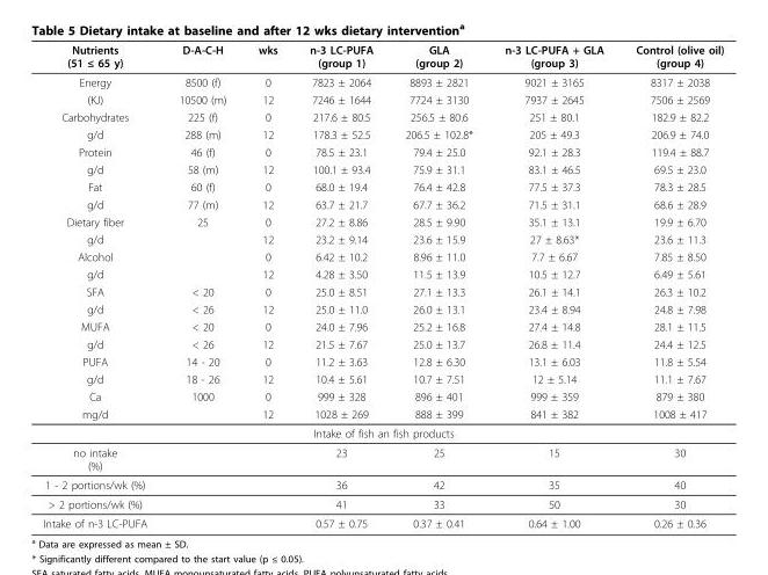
<table><thead><tr><td>Nutrients (51 ≤ 65 y)</td><td>D-A-C-H</td><td>wks</td><td>n-3 LC-PUFA (group 1)</td><td>GLA (group 2)</td><td>n-3 LC-PUFA + GLA (group 3)</td><td>Control (olive oil) (group 4)</td></tr></thead><tbody><tr><td>Energy</td><td>8500 (f)</td><td>0</td><td>7823 ± 2064</td><td>8893 ± 2821</td><td>9021 ± 3165</td><td>8317 ± 2038</td></tr><tr><td>(KJ)</td><td>10500 (m)</td><td>12</td><td>7246 ± 1644</td><td>7724 ± 3130</td><td>7937 ± 2645</td><td>7506 ± 2569</td></tr><tr><td>Carbohydrates</td><td>225 (f)</td><td>0</td><td>217.6 ± 80.5</td><td>256.5 ± 80.6</td><td>251 ± 80.1</td><td>182.9 ± 82.2</td></tr><tr><td>g/d</td><td>288 (m)</td><td>12</td><td>178.3 ± 52.5</td><td>206.5 ± 102.8*</td><td>205 ± 49.3</td><td>206.9 ± 74.0</td></tr><tr><td>Protein</td><td>46 (f)</td><td>0</td><td>78.5 ± 23.1</td><td>79.4 ± 25.0</td><td>92.1 ± 28.3</td><td>119.4 ± 88.7</td></tr><tr><td>g/d</td><td>58 (m)</td><td>12</td><td>100.1 ± 93.4</td><td>75.9 ± 31.1</td><td>83.1 ± 46.5</td><td>69.5 ± 23.0</td></tr><tr><td>Fat</td><td>60 (f)</td><td>0</td><td>68.0 ± 19.4</td><td>76.4 ± 42.8</td><td>77.5 ± 37.3</td><td>78.3 ± 28.5</td></tr><tr><td>g/d</td><td>77 (m)</td><td>12</td><td>63.7 ± 21.7</td><td>67.7 ± 36.2</td><td>71.5 ± 31.1</td><td>68.6 ± 28.9</td></tr><tr><td>Dietary fiber</td><td>25</td><td>0</td><td>27.2 ± 8.86</td><td>28.5 ± 9.90</td><td>35.1 ± 13.1</td><td>19.9 ± 6.70</td></tr><tr><td>g/d</td><td></td><td>12</td><td>23.2 ± 9.14</td><td>23.6 ± 15.9</td><td>27 ± 8.63*</td><td>23.6 ± 11.3</td></tr><tr><td>Alcohol</td><td></td><td>0</td><td>6.42 ± 10.2</td><td>8.96 ± 11.0</td><td>7.7 ± 6.67</td><td>7.85 ± 8.50</td></tr><tr><td>g/d</td><td></td><td>12</td><td>4.28 ± 3.50</td><td>11.5 ± 13.9</td><td>10.5 ± 12.7</td><td>6.49 ± 5.61</td></tr><tr><td>SFA</td><td>&lt; 20</td><td>0</td><td>25.0 ± 8.51</td><td>27.1 ± 13.3</td><td>26.1 ± 14.1</td><td>26.3 ± 10.2</td></tr><tr><td>g/d</td><td>&lt; 26</td><td>12</td><td>25.0 ± 11.0</td><td>26.0 ± 13.1</td><td>23.4 ± 8.94</td><td>24.8 ± 7.98</td></tr><tr><td>MUFA</td><td>&lt; 20</td><td>0</td><td>24.0 ± 7.96</td><td>25.2 ± 16.8</td><td>27.4 ± 14.8</td><td>28.1 ± 11.5</td></tr><tr><td>g/d</td><td>&lt; 26</td><td>12</td><td>21.5 ± 7.67</td><td>25.0 ± 13.7</td><td>26.8 ± 11.4</td><td>24.4 ± 12.5</td></tr><tr><td>PUFA</td><td>14 - 20</td><td>0</td><td>11.2 ± 3.63</td><td>12.8 ± 6.30</td><td>13.1 ± 6.03</td><td>11.8 ± 5.54</td></tr><tr><td>g/d</td><td>18 - 26</td><td>12</td><td>10.4 ± 5.61</td><td>10.7 ± 7.51</td><td>12 ± 5.14</td><td>11.1 ± 7.67</td></tr><tr><td>Ca</td><td>1000</td><td>0</td><td>999 ± 328</td><td>896 ± 401</td><td>999 ± 359</td><td>879 ± 380</td></tr><tr><td>mg/d</td><td></td><td>12</td><td>1028 ± 269</td><td>888 ± 399</td><td>841 ± 382</td><td>1008 ± 417</td></tr><tr><td colspan="7">Intake of fish an fish products</td></tr><tr><td>no intake (%)</td><td></td><td></td><td>23</td><td>25</td><td>15</td><td>30</td></tr><tr><td>1 - 2 portions/wk (%)</td><td></td><td></td><td>36</td><td>42</td><td>35</td><td>40</td></tr><tr><td>&gt; 2 portions/wk (%)</td><td></td><td></td><td>41</td><td>33</td><td>50</td><td>30</td></tr><tr><td>Intake of n-3 LC-PUFA</td><td></td><td></td><td>0.57 ± 0.75</td><td>0.37 ± 0.41</td><td>0.64 ± 1.00</td><td>0.26 ± 0.36</td></tr></tbody></table>